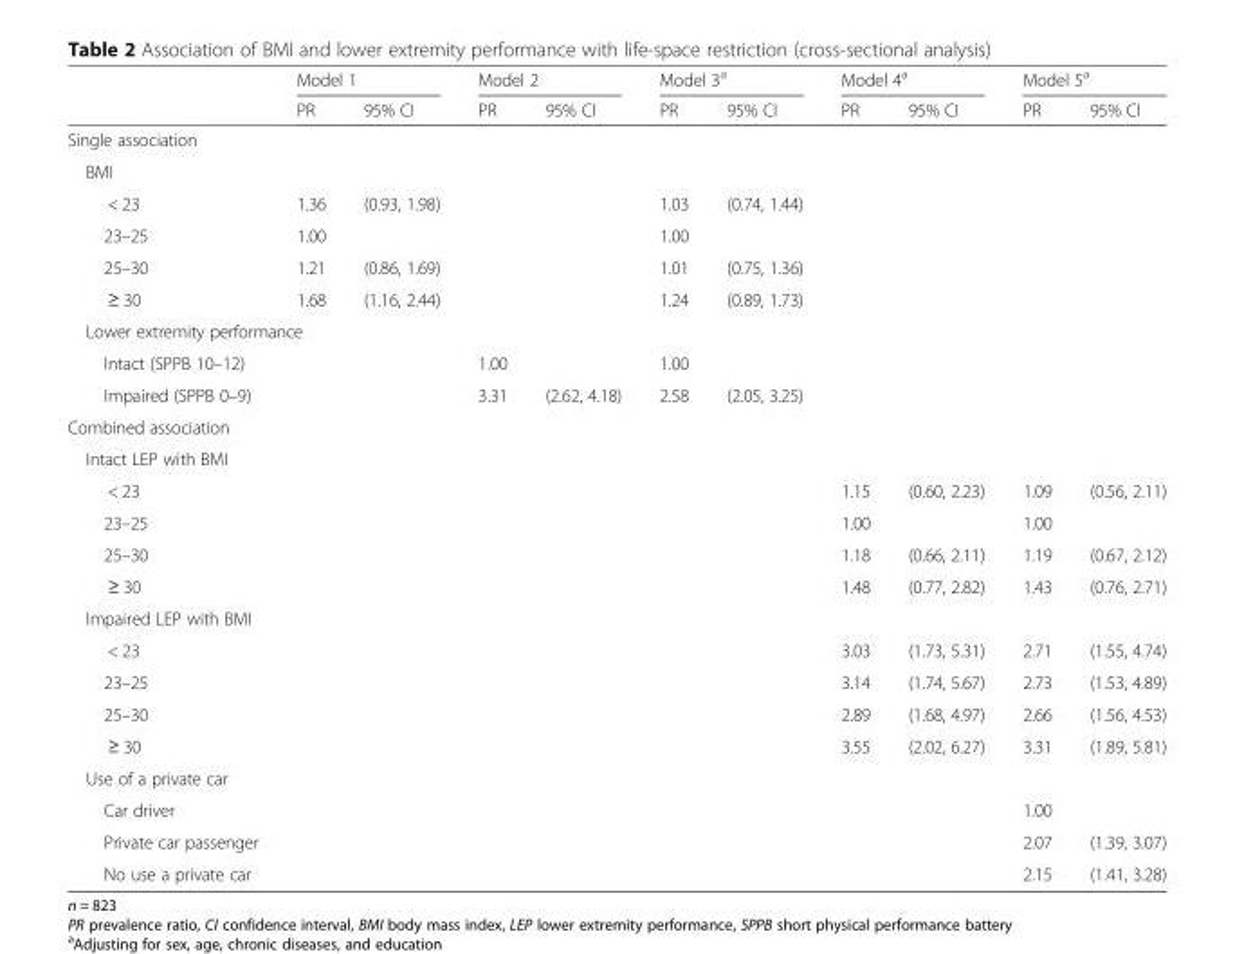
<table><thead><tr><td rowspan="2"></td><td colspan="2">Model 1</td><td colspan="2">Model 2</td><td colspan="2">Model 3<sup>a</sup></td><td colspan="2">Model 4<sup>a</sup></td><td colspan="2">Model 5<sup>a</sup></td></tr><tr><td>PR</td><td>95% CI</td><td>PR</td><td>95% CI</td><td>PR</td><td>95% CI</td><td>PR</td><td>95% CI</td><td>PR</td><td>95% CI</td></tr></thead><tbody><tr><td colspan="11">Single association</td></tr><tr><td colspan="11">BMI</td></tr><tr><td>&lt; 23</td><td>1.36</td><td>(0.93, 1.98)</td><td></td><td></td><td>1.03</td><td>(0.74, 1.44)</td><td></td><td></td><td></td><td></td></tr><tr><td>23–25</td><td>1.00</td><td></td><td></td><td></td><td>1.00</td><td></td><td></td><td></td><td></td><td></td></tr><tr><td>25–30</td><td>1.21</td><td>(0.86, 1.69)</td><td></td><td></td><td>1.01</td><td>(0.75, 1.36)</td><td></td><td></td><td></td><td></td></tr><tr><td>≥ 30</td><td>1.68</td><td>(1.16, 2.44)</td><td></td><td></td><td>1.24</td><td>(0.89, 1.73)</td><td></td><td></td><td></td><td></td></tr><tr><td colspan="11">Lower extremity performance</td></tr><tr><td>Intact (SPPB 10–12)</td><td></td><td></td><td>1.00</td><td></td><td>1.00</td><td></td><td></td><td></td><td></td><td></td></tr><tr><td>Impaired (SPPB 0–9)</td><td></td><td></td><td>3.31</td><td>(2.62, 4.18)</td><td>2.58</td><td>(2.05, 3.25)</td><td></td><td></td><td></td><td></td></tr><tr><td colspan="11">Combined association</td></tr><tr><td colspan="11">Intact LEP with BMI</td></tr><tr><td>&lt; 23</td><td></td><td></td><td></td><td></td><td></td><td></td><td>1.15</td><td>(0.60, 2.23)</td><td>1.09</td><td>(0.56, 2.11)</td></tr><tr><td>23–25</td><td></td><td></td><td></td><td></td><td></td><td></td><td>1.00</td><td></td><td>1.00</td><td></td></tr><tr><td>25–30</td><td></td><td></td><td></td><td></td><td></td><td></td><td>1.18</td><td>(0.66, 2.11)</td><td>1.19</td><td>(0.67, 2.12)</td></tr><tr><td>≥ 30</td><td></td><td></td><td></td><td></td><td></td><td></td><td>1.48</td><td>(0.77, 2.82)</td><td>1.43</td><td>(0.76, 2.71)</td></tr><tr><td colspan="11">Impaired LEP with BMI</td></tr><tr><td>&lt; 23</td><td></td><td></td><td></td><td></td><td></td><td></td><td>3.03</td><td>(1.73, 5.31)</td><td>2.71</td><td>(1.55, 4.74)</td></tr><tr><td>23–25</td><td></td><td></td><td></td><td></td><td></td><td></td><td>3.14</td><td>(1.74, 5.67)</td><td>2.73</td><td>(1.53, 4.89)</td></tr><tr><td>25–30</td><td></td><td></td><td></td><td></td><td></td><td></td><td>2.89</td><td>(1.68, 4.97)</td><td>2.66</td><td>(1.56, 4.53)</td></tr><tr><td>≥ 30</td><td></td><td></td><td></td><td></td><td></td><td></td><td>3.55</td><td>(2.02, 6.27)</td><td>3.31</td><td>(1.89, 5.81)</td></tr><tr><td colspan="11">Use of a private car</td></tr><tr><td>Car driver</td><td></td><td></td><td></td><td></td><td></td><td></td><td></td><td></td><td>1.00</td><td></td></tr><tr><td>Private car passenger</td><td></td><td></td><td></td><td></td><td></td><td></td><td></td><td></td><td>2.07</td><td>(1.39, 3.07)</td></tr><tr><td>No use a private car</td><td></td><td></td><td></td><td></td><td></td><td></td><td></td><td></td><td>2.15</td><td>(1.41, 3.28)</td></tr></tbody></table>